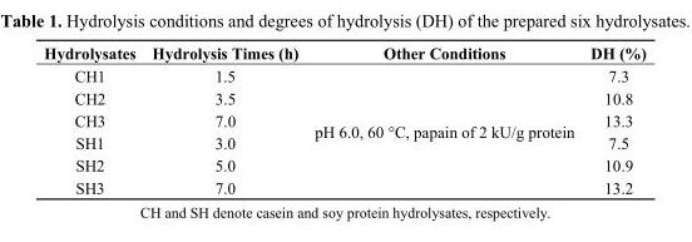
<table><thead><tr><td>Hydrolysates</td><td>Hydrolysis Times (h)</td><td>Other Conditions</td><td>DH (%)</td></tr></thead><tbody><tr><td>CH1</td><td>1.5</td><td rowspan="6">pH 6.0, 60 °C, papain of 2 kU/g protein</td><td>7.3</td></tr><tr><td>CH2</td><td>3.5</td><td>10.8</td></tr><tr><td>CH3</td><td>7.0</td><td>13.3</td></tr><tr><td>SH1</td><td>3.0</td><td>7.5</td></tr><tr><td>SH2</td><td>5.0</td><td>10.9</td></tr><tr><td>SH3</td><td>7.0</td><td>13.2</td></tr></tbody></table>